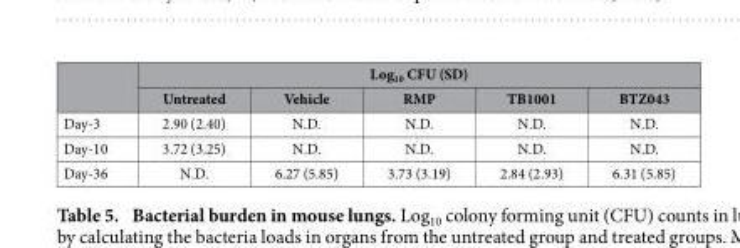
<table><thead><tr><td rowspan="2"></td><td colspan="5">Log<sub>10</sub> CFU (SD)</td></tr><tr><td>Untreated</td><td>Vehicle</td><td>RMP</td><td>TB1001</td><td>BTZ043</td></tr></thead><tbody><tr><td>Day-3</td><td>2.90 (2.40)</td><td>N.D.</td><td>N.D.</td><td>N.D.</td><td>N.D.</td></tr><tr><td>Day-10</td><td>3.72 (3.25)</td><td>N.D.</td><td>N.D.</td><td>N.D.</td><td>N.D.</td></tr><tr><td>Day-36</td><td>N.D.</td><td>6.27 (5.85)</td><td>3.73 (3.19)</td><td>2.84 (2.93)</td><td>6.31 (5.85)</td></tr></tbody></table>